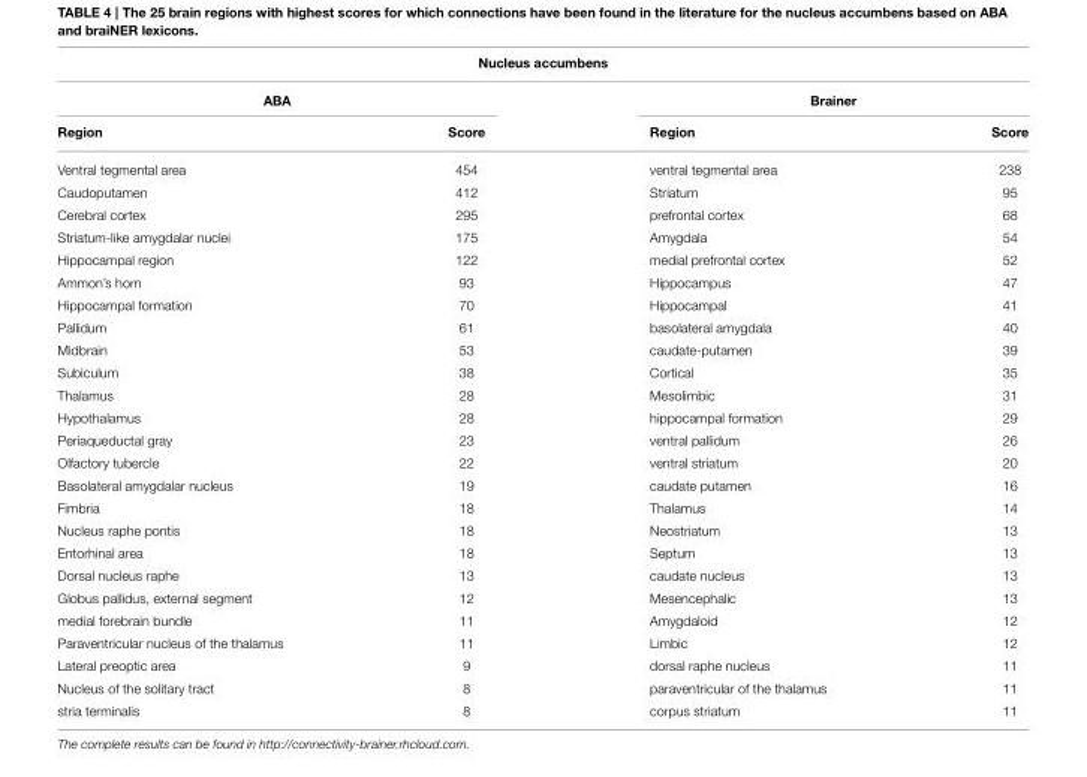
<table><thead><tr><td colspan="4">Nucleus accumbens</td></tr><tr><td colspan="2">ABA</td><td colspan="2">Brainer</td></tr><tr><td>Region</td><td>Score</td><td>Region</td><td>Score</td></tr></thead><tbody><tr><td>Ventral tegmental area</td><td>454</td><td>ventral tegmental area</td><td>238</td></tr><tr><td>Caudoputamen</td><td>412</td><td>Striatum</td><td>95</td></tr><tr><td>Cerebral cortex</td><td>295</td><td>prefrontal cortex</td><td>68</td></tr><tr><td>Striatum-like amygdalar nuclei</td><td>175</td><td>Amygdala</td><td>54</td></tr><tr><td>Hippocampal region</td><td>122</td><td>medial prefrontal cortex</td><td>52</td></tr><tr><td>Ammon’s horn</td><td>93</td><td>Hippocampus</td><td>47</td></tr><tr><td>Hippocampal formation</td><td>70</td><td>Hippocampal</td><td>41</td></tr><tr><td>Pallidum</td><td>61</td><td>basolateral amygdala</td><td>40</td></tr><tr><td>Midbrain</td><td>53</td><td>caudate-putamen</td><td>39</td></tr><tr><td>Subiculum</td><td>38</td><td>Cortical</td><td>35</td></tr><tr><td>Thalamus</td><td>28</td><td>Mesolimbic</td><td>31</td></tr><tr><td>Hypothalamus</td><td>28</td><td>hippocampal formation</td><td>29</td></tr><tr><td>Periaqueductal gray</td><td>23</td><td>ventral pallidum</td><td>26</td></tr><tr><td>Olfactory tubercle</td><td>22</td><td>ventral striatum</td><td>20</td></tr><tr><td>Basolateral amygdalar nucleus</td><td>19</td><td>caudate putamen</td><td>16</td></tr><tr><td>Fimbria</td><td>18</td><td>Thalamus</td><td>14</td></tr><tr><td>Nucleus raphe pontis</td><td>18</td><td>Neostriatum</td><td>13</td></tr><tr><td>Entorhinal area</td><td>18</td><td>Septum</td><td>13</td></tr><tr><td>Dorsal nucleus raphe</td><td>13</td><td>caudate nucleus</td><td>13</td></tr><tr><td>Globus pallidus, external segment</td><td>12</td><td>Mesencephalic</td><td>13</td></tr><tr><td>medial forebrain bundle</td><td>11</td><td>Amygdaloid</td><td>12</td></tr><tr><td>Paraventricular nucleus of the thalamus</td><td>11</td><td>Limbic</td><td>12</td></tr><tr><td>Lateral preoptic area</td><td>9</td><td>dorsal raphe nucleus</td><td>11</td></tr><tr><td>Nucleus of the solitary tract</td><td>8</td><td>paraventricular of the thalamus</td><td>11</td></tr><tr><td>stria terminalis</td><td>8</td><td>corpus striatum</td><td>11</td></tr></tbody></table>